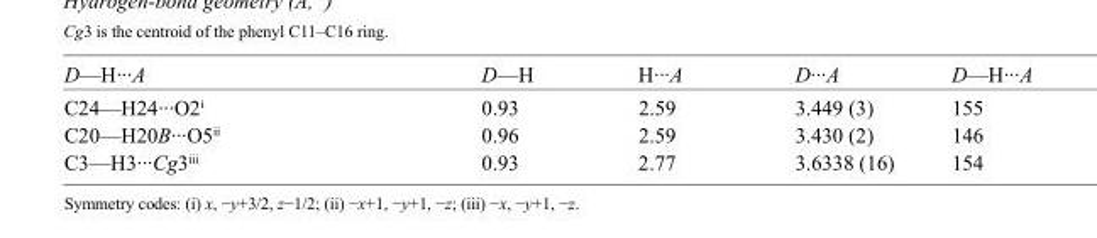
<table><tbody><tr><td>D—H···A</td><td>D—H</td><td>H···A</td><td>D···A</td><td>D—H···A</td></tr><tr><td>C24—H24···O2<sup>i</sup></td><td>0.93</td><td>2.59</td><td>3.449 (3)</td><td>155</td></tr><tr><td>C20—H20B···O5<sup>ii</sup></td><td>0.96</td><td>2.59</td><td>3.430 (2)</td><td>146</td></tr><tr><td>C3—H3···Cg3<sup>iii</sup></td><td>0.93</td><td>2.77</td><td>3.6338 (16)</td><td>154</td></tr></tbody></table>